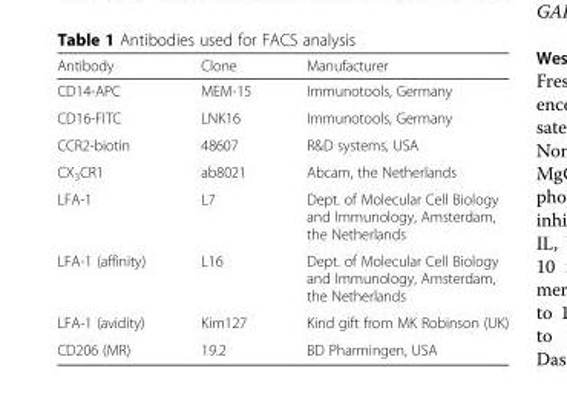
<table><thead><tr><td>Antibody</td><td>Clone</td><td>Manufacturer</td></tr></thead><tbody><tr><td>CD14-APC</td><td>MEM-15</td><td>Immunotools, Germany</td></tr><tr><td>CD16-FITC</td><td>LNK16</td><td>Immunotools, Germany</td></tr><tr><td>CCR2-biotin</td><td>48607</td><td>R&amp;D systems, USA</td></tr><tr><td>CX<sub>3</sub>CR1</td><td>ab8021</td><td>Abcam, the Netherlands</td></tr><tr><td>LFA-1</td><td>L7</td><td>Dept. of Molecular Cell Biology and Immunology, Amsterdam, the Netherlands</td></tr><tr><td>LFA-1 (affinity)</td><td>L16</td><td>Dept. of Molecular Cell Biology and Immunology, Amsterdam, the Netherlands</td></tr><tr><td>LFA-1 (avidity)</td><td>Kim127</td><td>Kind gift from MK Robinson (UK)</td></tr><tr><td>CD206 (MR)</td><td>19.2</td><td>BD Pharmingen, USA</td></tr></tbody></table>